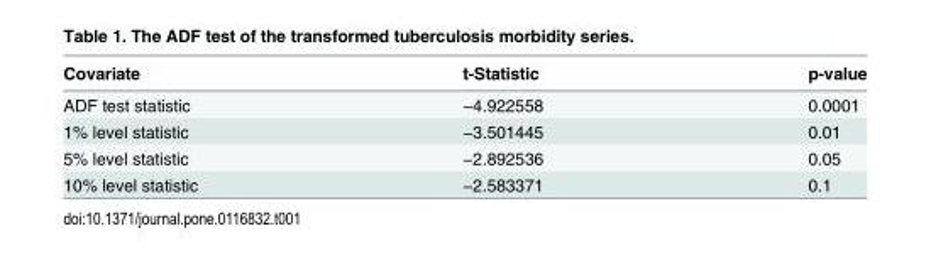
<table><thead><tr><td>Covariate</td><td>t-Statistic</td><td>p-value</td></tr></thead><tbody><tr><td>ADF test statistic</td><td>−4.922558</td><td>0.0001</td></tr><tr><td>1% level statistic</td><td>−3.501445</td><td>0.01</td></tr><tr><td>5% level statistic</td><td>−2.892536</td><td>0.05</td></tr><tr><td>10% level statistic</td><td>−2.583371</td><td>0.1</td></tr></tbody></table>